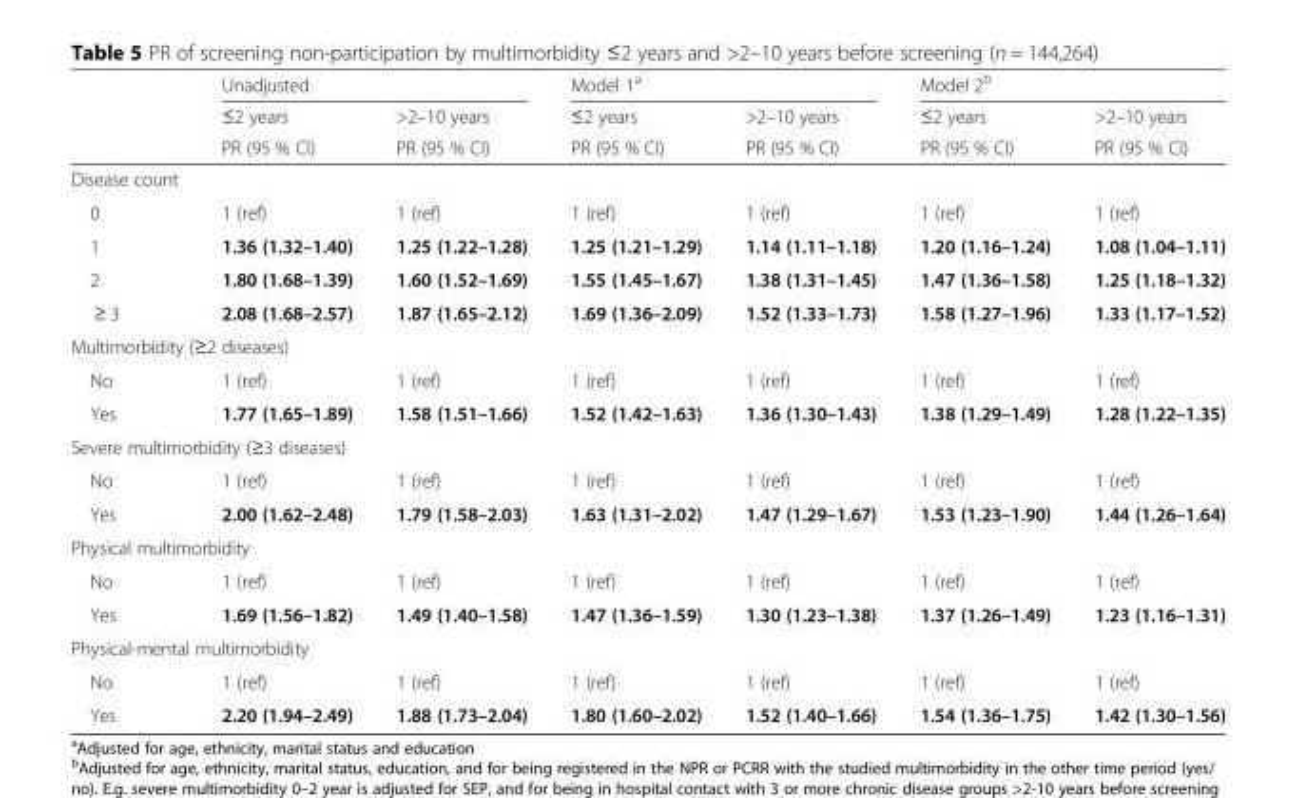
<table><thead><tr><td rowspan="3"></td><td colspan="2">Unadjusted</td><td colspan="2">Model 1<sup>a</sup></td><td colspan="2">Model 2<sup>b</sup></td></tr><tr><td rowspan="2">≤2 years PR (95 % CI)</td><td rowspan="2">&gt;2–10 years PR (95 % CI)</td><td rowspan="2">≤2 years PR (95 % CI)</td><td rowspan="2">&gt;2–10 years PR (95 % CI)</td><td rowspan="2">≤2 years PR (95 % CI)</td><td rowspan="2">&gt;2–10 years PR (95 % CI)</td></tr><tr></tr></thead><tbody><tr><td colspan="7">Disease count</td></tr><tr><td>0</td><td>1 (ref)</td><td>1 (ref)</td><td>1 (ref)</td><td>1 (ref)</td><td>1 (ref)</td><td>1 (ref)</td></tr><tr><td>1</td><td>1.36 (1.32–1.40)</td><td>1.25 (1.22–1.28)</td><td>1.25 (1.21–1.29)</td><td>1.14 (1.11–1.18)</td><td>1.20 (1.16–1.24)</td><td>1.08 (1.04–1.11)</td></tr><tr><td>2</td><td>1.80 (1.68–1.39)</td><td>1.60 (1.52–1.69)</td><td>1.55 (1.45–1.67)</td><td>1.38 (1.31–1.45)</td><td>1.47 (1.36–1.58)</td><td>1.25 (1.18–1.32)</td></tr><tr><td>≥ 3</td><td>2.08 (1.68–2.57)</td><td>1.87 (1.65–2.12)</td><td>1.69 (1.36–2.09)</td><td>1.52 (1.33–1.73)</td><td>1.58 (1.27–1.96)</td><td>1.33 (1.17–1.52)</td></tr><tr><td colspan="7">Multimorbidity (≥2 diseases)</td></tr><tr><td>No</td><td>1 (ref)</td><td>1 (ref)</td><td>1 (ref)</td><td>1 (ref)</td><td>1 (ref)</td><td>1 (ref)</td></tr><tr><td>Yes</td><td>1.77 (1.65–1.89)</td><td>1.58 (1.51–1.66)</td><td>1.52 (1.42–1.63)</td><td>1.36 (1.30–1.43)</td><td>1.38 (1.29–1.49)</td><td>1.28 (1.22–1.35)</td></tr><tr><td colspan="7">Severe multimorbidity (≥3 diseases)</td></tr><tr><td>No</td><td>1 (ref)</td><td>1 (ref)</td><td>1 (ref)</td><td>1 (ref)</td><td>1 (ref)</td><td>1 (ref)</td></tr><tr><td>Yes</td><td>2.00 (1.62–2.48)</td><td>1.79 (1.58–2.03)</td><td>1.63 (1.31–2.02)</td><td>1.47 (1.29–1.67)</td><td>1.53 (1.23–1.90)</td><td>1.44 (1.26–1.64)</td></tr><tr><td colspan="7">Physical multimorbidity</td></tr><tr><td>No</td><td>1 (ref)</td><td>1 (ref)</td><td>1 (ref)</td><td>1 (ref)</td><td>1 (ref)</td><td>1 (ref)</td></tr><tr><td>Yes</td><td>1.69 (1.56–1.82)</td><td>1.49 (1.40–1.58)</td><td>1.47 (1.36–1.59)</td><td>1.30 (1.23–1.38)</td><td>1.37 (1.26–1.49)</td><td>1.23 (1.16–1.31)</td></tr><tr><td colspan="7">Physical-mental multimorbidity</td></tr><tr><td>No</td><td>1 (ref)</td><td>1 (ref)</td><td>1 (ref)</td><td>1 (ref)</td><td>1 (ref)</td><td>1 (ref)</td></tr><tr><td>Yes</td><td>2.20 (1.94–2.49)</td><td>1.88 (1.73–2.04)</td><td>1.80 (1.60–2.02)</td><td>1.52 (1.40–1.66)</td><td>1.54 (1.36–1.75)</td><td>1.42 (1.30–1.56)</td></tr></tbody></table>